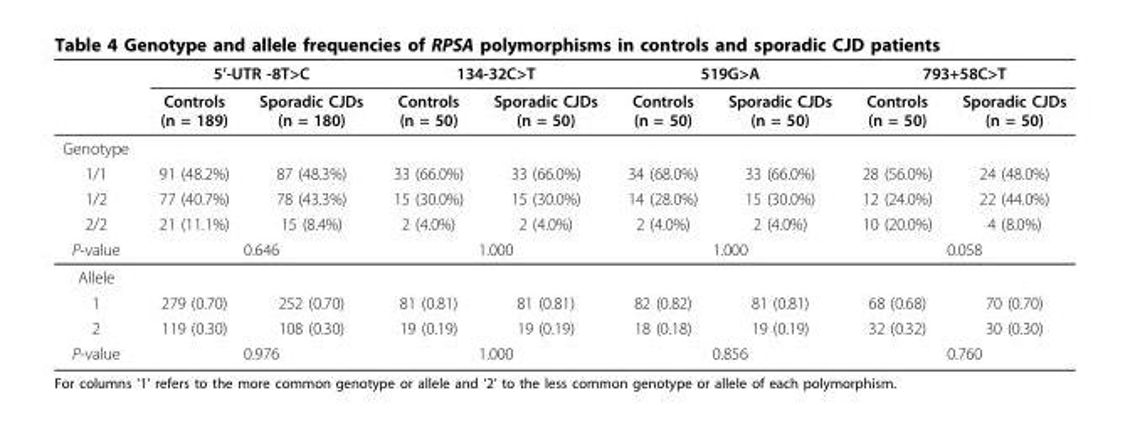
<table><thead><tr><td rowspan="2"></td><td colspan="2">5’-UTR -8T&gt;C</td><td colspan="2">134-32C&gt;T</td><td colspan="2">519G&gt;A</td><td colspan="2">793+58C&gt;T</td></tr><tr><td>Controls (n = 189)</td><td>Sporadic CJDs (n = 180)</td><td>Controls (n = 50)</td><td>Sporadic CJDs (n = 50)</td><td>Controls (n = 50)</td><td>Sporadic CJDs (n = 50)</td><td>Controls (n = 50)</td><td>Sporadic CJDs (n = 50)</td></tr></thead><tbody><tr><td colspan="9">Genotype</td></tr><tr><td>1/1</td><td>91 (48.2%)</td><td>87 (48.3%)</td><td>33 (66.0%)</td><td>33 (66.0%)</td><td>34 (68.0%)</td><td>33 (66.0%)</td><td>28 (56.0%)</td><td>24 (48.0%)</td></tr><tr><td>1/2</td><td>77 (40.7%)</td><td>78 (43.3%)</td><td>15 (30.0%)</td><td>15 (30.0%)</td><td>14 (28.0%)</td><td>15 (30.0%)</td><td>12 (24.0%)</td><td>22 (44.0%)</td></tr><tr><td>2/2</td><td>21 (11.1%)</td><td>15 (8.4%)</td><td>2 (4.0%)</td><td>2 (4.0%)</td><td>2 (4.0%)</td><td>2 (4.0%)</td><td>10 (20.0%)</td><td>4 (8.0%)</td></tr><tr><td>P-value</td><td colspan="2">0.646</td><td colspan="2">1.000</td><td colspan="2">1.000</td><td colspan="2">0.058</td></tr><tr><td colspan="9">Allele</td></tr><tr><td>1</td><td>279 (0.70)</td><td>252 (0.70)</td><td>81 (0.81)</td><td>81 (0.81)</td><td>82 (0.82)</td><td>81 (0.81)</td><td>68 (0.68)</td><td>70 (0.70)</td></tr><tr><td>2</td><td>119 (0.30)</td><td>108 (0.30)</td><td>19 (0.19)</td><td>19 (0.19)</td><td>18 (0.18)</td><td>19 (0.19)</td><td>32 (0.32)</td><td>30 (0.30)</td></tr><tr><td>P-value</td><td colspan="2">0.976</td><td colspan="2">1.000</td><td colspan="2">0.856</td><td colspan="2">0.760</td></tr></tbody></table>